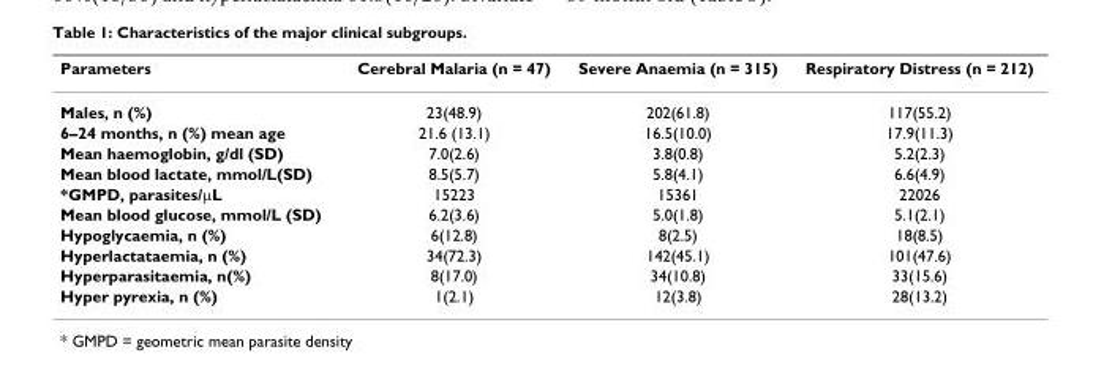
<table><thead><tr><td>Parameters</td><td>Cerebral Malaria (n = 47)</td><td>Severe Anaemia (n = 315)</td><td>Respiratory Distress (n = 212)</td></tr></thead><tbody><tr><td>Males, n (%)</td><td>23(48.9)</td><td>202(61.8)</td><td>117(55.2)</td></tr><tr><td>6–24 months, n (%) mean age</td><td>21.6 (13.1)</td><td>16.5(10.0)</td><td>17.9(11.3)</td></tr><tr><td>Mean haemoglobin, g/dl (SD)</td><td>7.0(2.6)</td><td>3.8(0.8)</td><td>5.2(2.3)</td></tr><tr><td>Mean blood lactate, mmol/L(SD)</td><td>8.5(5.7)</td><td>5.8(4.1)</td><td>6.6(4.9)</td></tr><tr><td>*GMPD, parasites/µL</td><td>15223</td><td>15361</td><td>22026</td></tr><tr><td>Mean blood glucose, mmol/L (SD)</td><td>6.2(3.6)</td><td>5.0(1.8)</td><td>5.1(2.1)</td></tr><tr><td>Hypoglycaemia, n (%)</td><td>6(12.8)</td><td>8(2.5)</td><td>18(8.5)</td></tr><tr><td>Hyperlactataemia, n (%)</td><td>34(72.3)</td><td>142(45.1)</td><td>101(47.6)</td></tr><tr><td>Hyperparasitaemia, n(%)</td><td>8(17.0)</td><td>34(10.8)</td><td>33(15.6)</td></tr><tr><td>Hyper pyrexia, n (%)</td><td>1(2.1)</td><td>12(3.8)</td><td>28(13.2)</td></tr></tbody></table>